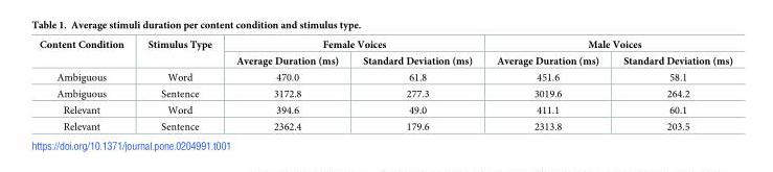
<table><thead><tr><td rowspan="2">Content Condition</td><td rowspan="2">Stimulus Type</td><td colspan="2">Female Voices</td><td colspan="2">Male Voices</td></tr><tr><td>Average Duration (ms)</td><td>Standard Deviation (ms)</td><td>Average Duration (ms)</td><td>Standard Deviation (ms)</td></tr></thead><tbody><tr><td>Ambiguous</td><td>Word</td><td>470.0</td><td>61.8</td><td>451.6</td><td>58.1</td></tr><tr><td>Ambiguous</td><td>Sentence</td><td>3172.8</td><td>277.3</td><td>3019.6</td><td>264.2</td></tr><tr><td>Relevant</td><td>Word</td><td>394.6</td><td>49.0</td><td>411.1</td><td>60.1</td></tr><tr><td>Relevant</td><td>Sentence</td><td>2362.4</td><td>179.6</td><td>2313.8</td><td>203.5</td></tr></tbody></table>